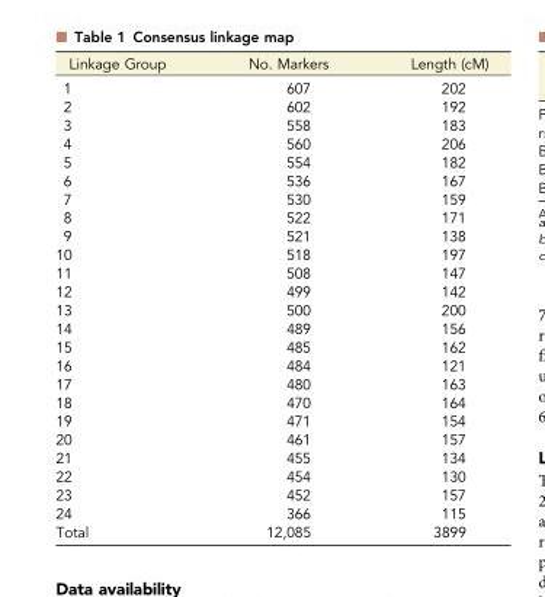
<table><thead><tr><td>Linkage Group</td><td>No. Markers</td><td>Length (cM)</td></tr></thead><tbody><tr><td>1</td><td>607</td><td>202</td></tr><tr><td>2</td><td>602</td><td>192</td></tr><tr><td>3</td><td>558</td><td>183</td></tr><tr><td>4</td><td>560</td><td>206</td></tr><tr><td>5</td><td>554</td><td>182</td></tr><tr><td>6</td><td>536</td><td>167</td></tr><tr><td>7</td><td>530</td><td>159</td></tr><tr><td>8</td><td>522</td><td>171</td></tr><tr><td>9</td><td>521</td><td>138</td></tr><tr><td>10</td><td>518</td><td>197</td></tr><tr><td>11</td><td>508</td><td>147</td></tr><tr><td>12</td><td>499</td><td>142</td></tr><tr><td>13</td><td>500</td><td>200</td></tr><tr><td>14</td><td>489</td><td>156</td></tr><tr><td>15</td><td>485</td><td>162</td></tr><tr><td>16</td><td>484</td><td>121</td></tr><tr><td>17</td><td>480</td><td>163</td></tr><tr><td>18</td><td>470</td><td>164</td></tr><tr><td>19</td><td>471</td><td>154</td></tr><tr><td>20</td><td>461</td><td>157</td></tr><tr><td>21</td><td>455</td><td>134</td></tr><tr><td>22</td><td>454</td><td>130</td></tr><tr><td>23</td><td>452</td><td>157</td></tr><tr><td>24</td><td>366</td><td>115</td></tr><tr><td>Total</td><td>12,085</td><td>3899</td></tr></tbody></table>